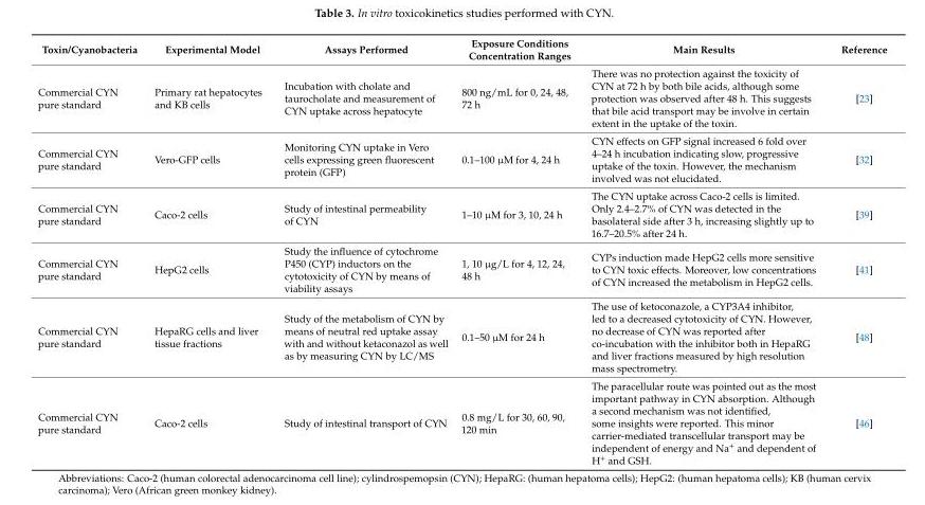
<table><thead><tr><td>Toxin/Cyanobacteria</td><td>Experimental Model</td><td>Assays Performed</td><td>Exposure Conditions Concentration Ranges</td><td>Main Results</td><td>Reference</td></tr></thead><tbody><tr><td>Commercial CYN pure standard</td><td>Primary rat hepatocytes and KB cells</td><td>Incubation with cholate and taurocholate and measurement of CYN uptake across hepatocyte</td><td>800 ng/mL for 0, 24, 48, 72 h</td><td>There was no protection against the toxicity of CYN at 72 h by both bile acids, although some protection was observed after 48 h. This suggests that bile acid transport may be involve in certain extent in the uptake of the toxin.</td><td>[23]</td></tr><tr><td>Commercial CYN pure standard</td><td>Vero-GFP cells</td><td>Monitoring CYN uptake in Vero cells expressing green fluorescent protein (GFP)</td><td>0.1–100 µM for 4, 24 h</td><td>CYN effects on GFP signal increased 6 fold over 4–24 h incubation indicating slow, progressive uptake of the toxin. However, the mechanism involved was not elucidated.</td><td>[32]</td></tr><tr><td>Commercial CYN pure standard</td><td>Caco-2 cells</td><td>Study of intestinal permeability of CYN</td><td>1–10 µM for 3, 10, 24 h</td><td>The CYN uptake across Caco-2 cells is limited. Only 2.4–2.7% of CYN was detected in the basolateral side after 3 h, increasing slightly up to 16.7–20.5% after 24 h.</td><td>[39]</td></tr><tr><td>Commercial CYN pure standard</td><td>HepG2 cells</td><td>Study the influence of cytochrome P450 (CYP) inductors on the cytotoxicity of CYN by means of viability assays</td><td>1, 10 µg/L for 4, 12, 24, 48 h</td><td>CYPs induction made HepG2 cells more sensitive to CYN toxic effects. Moreover, low concentrations of CYN increased the metabolism in HepG2 cells.</td><td>[41]</td></tr><tr><td>Commercial CYN pure standard</td><td>HepaRG cells and liver tissue fractions</td><td>Study of the metabolism of CYN by means of neutral red uptake assay with and without ketaconazol as well as by measuring CYN by LC/MS</td><td>0.1–50 µM for 24 h</td><td>The use of ketoconazole, a CYP3A4 inhibitor, led to a decreased cytotoxicity of CYN. However, no decrease of CYN was reported after co-incubation with the inhibitor both in HepaRG and liver fractions measured by high resolution mass spectrometry.</td><td>[48]</td></tr><tr><td>Commercial CYN pure standard</td><td>Caco-2 cells</td><td>Study of intestinal transport of CYN</td><td>0.8 mg/L for 30, 60, 90, 120 min</td><td>The paracellular route was pointed out as the most important pathway in CYN absorption. Although a second mechanism was not identified, some insights were reported. This minor carrier-mediated transcellular transport may be independent of energy and Na<sup>+</sup> and dependent of H<sup>+</sup> and GSH.</td><td>[46]</td></tr></tbody></table>